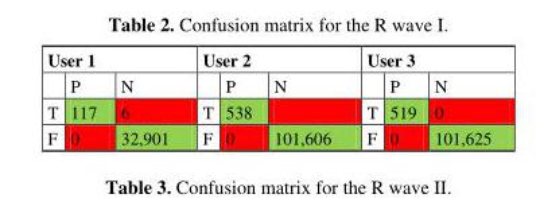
<table><thead><tr><td colspan="3">User 1</td><td colspan="3">User 2</td><td colspan="3">User 3</td></tr><tr><td></td><td>P</td><td>N</td><td></td><td>P</td><td>N</td><td></td><td>P</td><td>N</td></tr></thead><tbody><tr><td>T</td><td>117</td><td>6</td><td>T</td><td>538</td><td></td><td>T</td><td>519</td><td>0</td></tr><tr><td>F</td><td>0</td><td>32,901</td><td>F</td><td>0</td><td>101,606</td><td>F</td><td>0</td><td>101,625</td></tr></tbody></table>